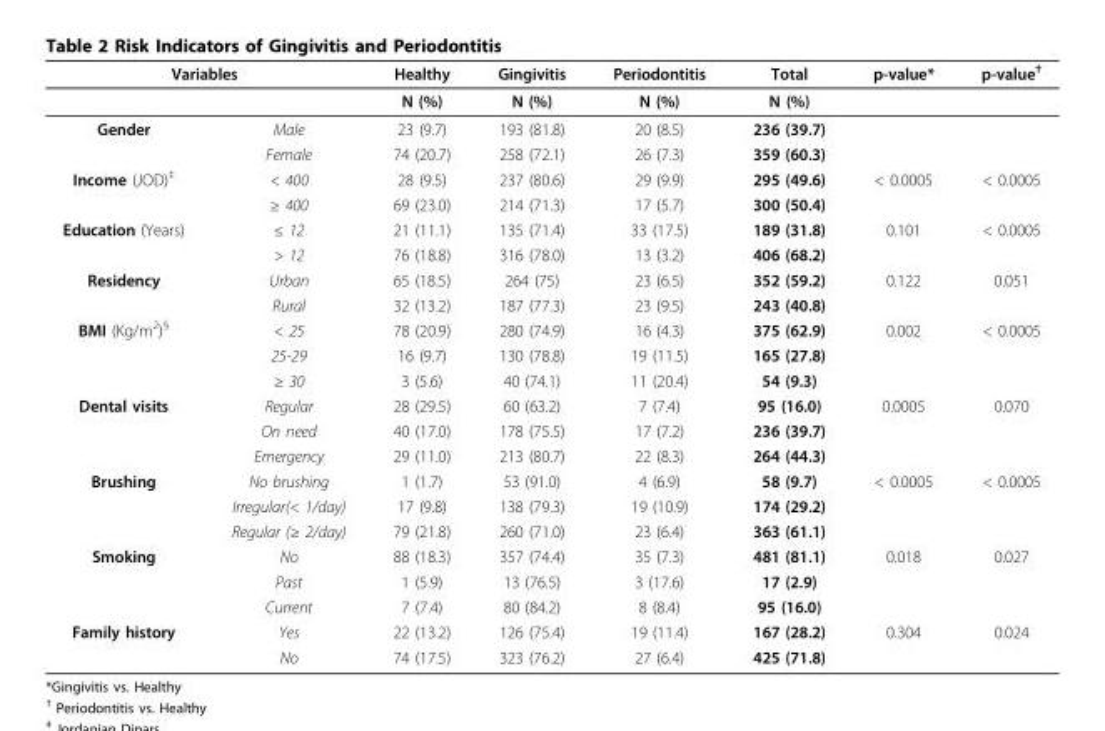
<table><thead><tr><td colspan="2">Variables</td><td rowspan="2">Healthy N (%)</td><td rowspan="2">Gingivitis N (%)</td><td rowspan="2">Periodontitis N (%)</td><td rowspan="2">Total N (%)</td><td rowspan="2">p-value*</td><td rowspan="2">p-value†</td></tr><tr><td></td><td></td></tr></thead><tbody><tr><td rowspan="2">Gender</td><td>Male</td><td>23 (9.7)</td><td>193 (81.8)</td><td>20 (8.5)</td><td>236 (39.7)</td><td></td><td></td></tr><tr><td>Female</td><td>74 (20.7)</td><td>258 (72.1)</td><td>26 (7.3)</td><td>359 (60.3)</td><td></td><td></td></tr><tr><td rowspan="2">Income (JOD)<sup>‡</sup></td><td>&lt; 400</td><td>28 (9.5)</td><td>237 (80.6)</td><td>29 (9.9)</td><td>295 (49.6)</td><td>&lt; 0.0005</td><td>&lt; 0.0005</td></tr><tr><td>≥ 400</td><td>69 (23.0)</td><td>214 (71.3)</td><td>17 (5.7)</td><td>300 (50.4)</td><td></td><td></td></tr><tr><td rowspan="2">Education (Years)</td><td>≤ 12</td><td>21 (11.1)</td><td>135 (71.4)</td><td>33 (17.5)</td><td>189 (31.8)</td><td>0.101</td><td>&lt; 0.0005</td></tr><tr><td>&gt; 12</td><td>76 (18.8)</td><td>316 (78.0)</td><td>13 (3.2)</td><td>406 (68.2)</td><td></td><td></td></tr><tr><td rowspan="2">Residency</td><td>Urban</td><td>65 (18.5)</td><td>264 (75)</td><td>23 (6.5)</td><td>352 (59.2)</td><td>0.122</td><td>0.051</td></tr><tr><td>Rural</td><td>32 (13.2)</td><td>187 (77.3)</td><td>23 (9.5)</td><td>243 (40.8)</td><td></td><td></td></tr><tr><td rowspan="3">BMI (Kg/m<sup>2</sup>)<sup>§</sup></td><td>&lt; 25</td><td>78 (20.9)</td><td>280 (74.9)</td><td>16 (4.3)</td><td>375 (62.9)</td><td>0.002</td><td>&lt; 0.0005</td></tr><tr><td>25-29</td><td>16 (9.7)</td><td>130 (78.8)</td><td>19 (11.5)</td><td>165 (27.8)</td><td></td><td></td></tr><tr><td>≥ 30</td><td>3 (5.6)</td><td>40 (74.1)</td><td>11 (20.4)</td><td>54 (9.3)</td><td></td><td></td></tr><tr><td rowspan="3">Dental visits</td><td>Regular</td><td>28 (29.5)</td><td>60 (63.2)</td><td>7 (7.4)</td><td>95 (16.0)</td><td>0.0005</td><td>0.070</td></tr><tr><td>On need</td><td>40 (17.0)</td><td>178 (75.5)</td><td>17 (7.2)</td><td>236 (39.7)</td><td></td><td></td></tr><tr><td>Emergency</td><td>29 (11.0)</td><td>213 (80.7)</td><td>22 (8.3)</td><td>264 (44.3)</td><td></td><td></td></tr><tr><td rowspan="3">Brushing</td><td>No brushing</td><td>1 (1.7)</td><td>53 (91.0)</td><td>4 (6.9)</td><td>58 (9.7)</td><td>&lt; 0.0005</td><td>&lt; 0.0005</td></tr><tr><td>Irregular(&lt; 1/day)</td><td>17 (9.8)</td><td>138 (79.3)</td><td>19 (10.9)</td><td>174 (29.2)</td><td></td><td></td></tr><tr><td>Regular (≥ 2/day)</td><td>79 (21.8)</td><td>260 (71.0)</td><td>23 (6.4)</td><td>363 (61.1)</td><td></td><td></td></tr><tr><td rowspan="3">Smoking</td><td>No</td><td>88 (18.3)</td><td>357 (74.4)</td><td>35 (7.3)</td><td>481 (81.1)</td><td>0.018</td><td>0.027</td></tr><tr><td>Past</td><td>1 (5.9)</td><td>13 (76.5)</td><td>3 (17.6)</td><td>17 (2.9)</td><td></td><td></td></tr><tr><td>Current</td><td>7 (7.4)</td><td>80 (84.2)</td><td>8 (8.4)</td><td>95 (16.0)</td><td></td><td></td></tr><tr><td rowspan="2">Family history</td><td>Yes</td><td>22 (13.2)</td><td>126 (75.4)</td><td>19 (11.4)</td><td>167 (28.2)</td><td>0.304</td><td>0.024</td></tr><tr><td>No</td><td>74 (17.5)</td><td>323 (76.2)</td><td>27 (6.4)</td><td>425 (71.8)</td><td></td><td></td></tr></tbody></table>